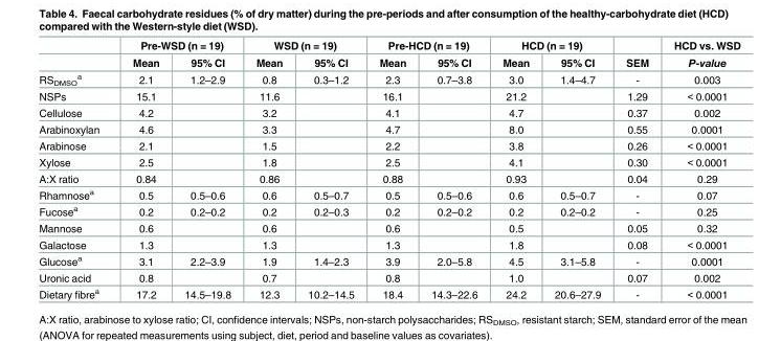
<table><thead><tr><td rowspan="2"></td><td colspan="2">Pre-WSD (n = 19)</td><td colspan="2">WSD (n = 19)</td><td colspan="2">Pre-HCD (n = 19)</td><td colspan="2">HCD (n = 19)</td><td rowspan="2">SEM</td><td rowspan="2">HCD vs. WSD P-value</td></tr><tr><td>Mean</td><td>95% CI</td><td>Mean</td><td>95% CI</td><td>Mean</td><td>95% CI</td><td>Mean</td><td>95% CI</td></tr></thead><tbody><tr><td>RS<sub>DMSO</sub> <sup>a</sup></td><td>2.1</td><td>1.2–2.9</td><td>0.8</td><td>0.3–1.2</td><td>2.3</td><td>0.7–3.8</td><td>3.0</td><td>1.4–4.7</td><td>-</td><td>0.003</td></tr><tr><td>NSPs</td><td>15.1</td><td></td><td>11.6</td><td></td><td>16.1</td><td></td><td>21.2</td><td></td><td>1.29</td><td>&lt; 0.0001</td></tr><tr><td>Cellulose</td><td>4.2</td><td></td><td>3.2</td><td></td><td>4.1</td><td></td><td>4.7</td><td></td><td>0.37</td><td>0.002</td></tr><tr><td>Arabinoxylan</td><td>4.6</td><td></td><td>3.3</td><td></td><td>4.7</td><td></td><td>8.0</td><td></td><td>0.55</td><td>0.0001</td></tr><tr><td>Arabinose</td><td>2.1</td><td></td><td>1.5</td><td></td><td>2.2</td><td></td><td>3.8</td><td></td><td>0.26</td><td>&lt; 0.0001</td></tr><tr><td>Xylose</td><td>2.5</td><td></td><td>1.8</td><td></td><td>2.5</td><td></td><td>4.1</td><td></td><td>0.30</td><td>&lt; 0.0001</td></tr><tr><td>A:X ratio</td><td>0.84</td><td></td><td>0.86</td><td></td><td>0.88</td><td></td><td>0.93</td><td></td><td>0.04</td><td>0.29</td></tr><tr><td>Rhamnose<sup>a</sup></td><td>0.5</td><td>0.5–0.6</td><td>0.6</td><td>0.5–0.7</td><td>0.5</td><td>0.5–0.6</td><td>0.6</td><td>0.5–0.7</td><td>-</td><td>0.07</td></tr><tr><td>Fucose<sup>a</sup></td><td>0.2</td><td>0.2–0.2</td><td>0.2</td><td>0.2–0.3</td><td>0.2</td><td>0.2–0.2</td><td>0.2</td><td>0.2–0.2</td><td>-</td><td>0.25</td></tr><tr><td>Mannose</td><td>0.6</td><td></td><td>0.6</td><td></td><td>0.6</td><td></td><td>0.5</td><td></td><td>0.05</td><td>0.32</td></tr><tr><td>Galactose</td><td>1.3</td><td></td><td>1.3</td><td></td><td>1.3</td><td></td><td>1.8</td><td></td><td>0.08</td><td>&lt; 0.0001</td></tr><tr><td>Glucose<sup>a</sup></td><td>3.1</td><td>2.2–3.9</td><td>1.9</td><td>1.4–2.3</td><td>3.9</td><td>2.0–5.8</td><td>4.5</td><td>3.1–5.8</td><td>-</td><td>0.0001</td></tr><tr><td>Uronic acid</td><td>0.8</td><td></td><td>0.7</td><td></td><td>0.8</td><td></td><td>1.0</td><td></td><td>0.07</td><td>0.002</td></tr><tr><td>Dietary fibre<sup>a</sup></td><td>17.2</td><td>14.5–19.8</td><td>12.3</td><td>10.2–14.5</td><td>18.4</td><td>14.3–22.6</td><td>24.2</td><td>20.6–27.9</td><td>-</td><td>&lt; 0.0001</td></tr></tbody></table>